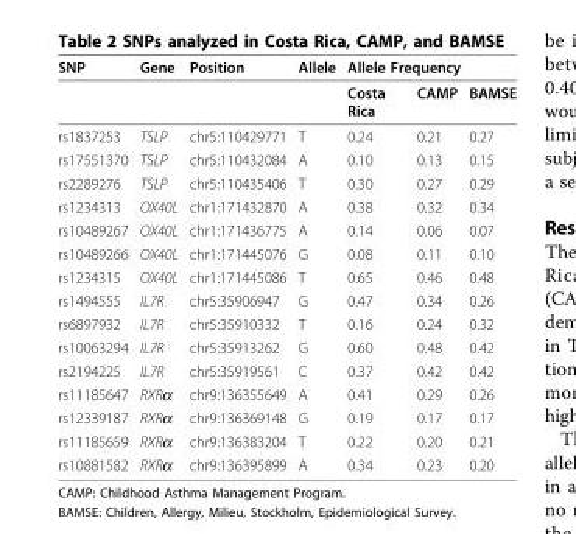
<table><thead><tr><td rowspan="2">SNP</td><td rowspan="2">Gene</td><td rowspan="2">Position</td><td rowspan="2">Allele</td><td colspan="3">Allele Frequency</td></tr><tr><td>Costa Rica</td><td>CAMP</td><td>BAMSE</td></tr></thead><tbody><tr><td>rs1837253</td><td>TSLP</td><td>chr5:110429771</td><td>T</td><td>0.24</td><td>0.21</td><td>0.27</td></tr><tr><td>rs17551370</td><td>TSLP</td><td>chr5:110432084</td><td>A</td><td>0.10</td><td>0.13</td><td>0.15</td></tr><tr><td>rs2289276</td><td>TSLP</td><td>chr5:110435406</td><td>T</td><td>0.30</td><td>0.27</td><td>0.29</td></tr><tr><td>rs1234313</td><td>OX40L</td><td>chr1:171432870</td><td>A</td><td>0.38</td><td>0.32</td><td>0.34</td></tr><tr><td>rs10489267</td><td>OX40L</td><td>chr1:171436775</td><td>A</td><td>0.14</td><td>0.06</td><td>0.07</td></tr><tr><td>rs10489266</td><td>OX40L</td><td>chr1:171445076</td><td>G</td><td>0.08</td><td>0.11</td><td>0.10</td></tr><tr><td>rs1234315</td><td>OX40L</td><td>chr1:171445086</td><td>T</td><td>0.65</td><td>0.46</td><td>0.48</td></tr><tr><td>rs1494555</td><td>IL7R</td><td>chr5:35906947</td><td>G</td><td>0.47</td><td>0.34</td><td>0.26</td></tr><tr><td>rs6897932</td><td>IL7R</td><td>chr5:35910332</td><td>T</td><td>0.16</td><td>0.24</td><td>0.32</td></tr><tr><td>rs10063294</td><td>IL7R</td><td>chr5:35913262</td><td>G</td><td>0.60</td><td>0.48</td><td>0.42</td></tr><tr><td>rs2194225</td><td>IL7R</td><td>chr5:35919561</td><td>C</td><td>0.37</td><td>0.42</td><td>0.42</td></tr><tr><td>rs11185647</td><td>RXRα</td><td>chr9:136355649</td><td>A</td><td>0.41</td><td>0.29</td><td>0.26</td></tr><tr><td>rs12339187</td><td>RXRα</td><td>chr9:136369148</td><td>G</td><td>0.19</td><td>0.17</td><td>0.17</td></tr><tr><td>rs11185659</td><td>RXRα</td><td>chr9:136383204</td><td>T</td><td>0.22</td><td>0.20</td><td>0.21</td></tr><tr><td>rs10881582</td><td>RXRα</td><td>chr9:136395899</td><td>A</td><td>0.34</td><td>0.23</td><td>0.20</td></tr></tbody></table>